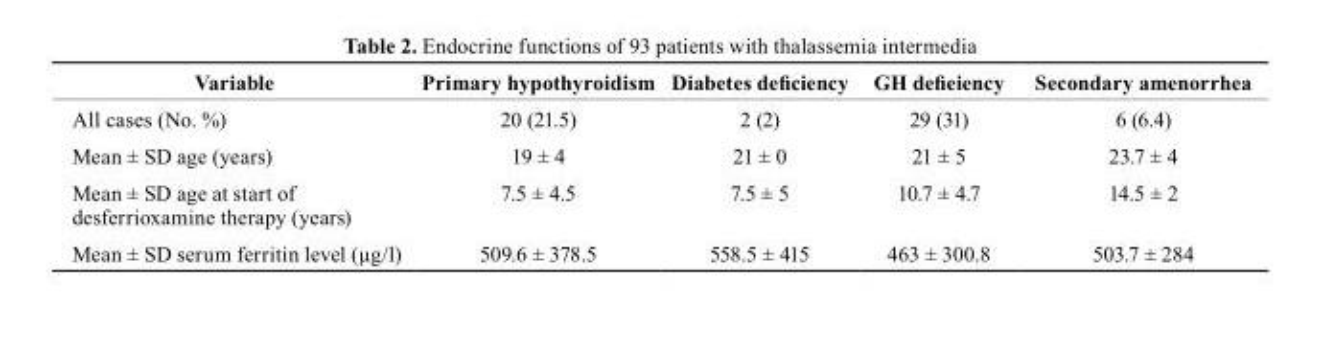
<table><thead><tr><td>Variable</td><td>Primary hypothyroidism</td><td>Diabetes deficiency</td><td>GH defieiency</td><td>secondary amenorrhea</td></tr></thead><tbody><tr><td>All cases (No. %)</td><td>20 (21.5)</td><td>2 (2)</td><td>29 (31)</td><td>6 (6.4)</td></tr><tr><td>Mean ± SD age (years)</td><td>19 ± 4</td><td>21 ± 0</td><td>21 ± 5</td><td>23.7 ± 4</td></tr><tr><td>Mean ± SD age at start of desferrioxamine therapy (years)</td><td>7.5 ± 4.5</td><td>7.5 ± 5</td><td>10.7 ± 4.7</td><td>14.5 ± 2</td></tr><tr><td>Mean ± SD serum ferritin level (µg/l)</td><td>509.6 ± 378.5</td><td>558.5 ± 415</td><td>463 ± 300.8</td><td>503.7 ± 284</td></tr></tbody></table>